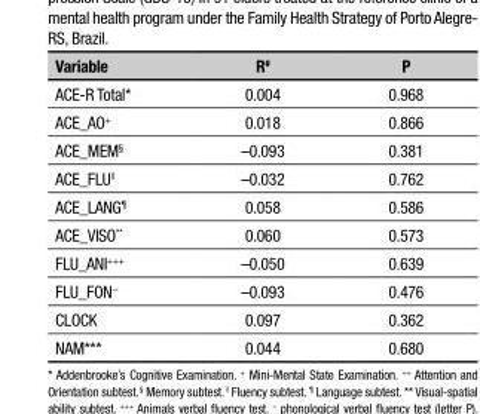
<table><thead><tr><td>Variable</td><td>R<sup>#</sup></td><td>P</td></tr></thead><tbody><tr><td>ACE-R Total*</td><td>0.004</td><td>0.968</td></tr><tr><td>ACE_AO<sup>+</sup></td><td>0.018</td><td>0.866</td></tr><tr><td>ACE_MEM<sup>§</sup></td><td>–0.093</td><td>0.381</td></tr><tr><td>ACE_FLU<sup>||</sup></td><td>–0.032</td><td>0.762</td></tr><tr><td>ACE_LANG<sup>¶</sup></td><td>0.058</td><td>0.586</td></tr><tr><td>ACE_VISO**</td><td>0.060</td><td>0.573</td></tr><tr><td>FLU_ANI<sup>+++</sup></td><td>–0.050</td><td>0.639</td></tr><tr><td>FLU_FON<sup>--</sup></td><td>–0.093</td><td>0.476</td></tr><tr><td>CLOCK</td><td>0.097</td><td>0.362</td></tr><tr><td>NAM***</td><td>0.044</td><td>0.680</td></tr></tbody></table>